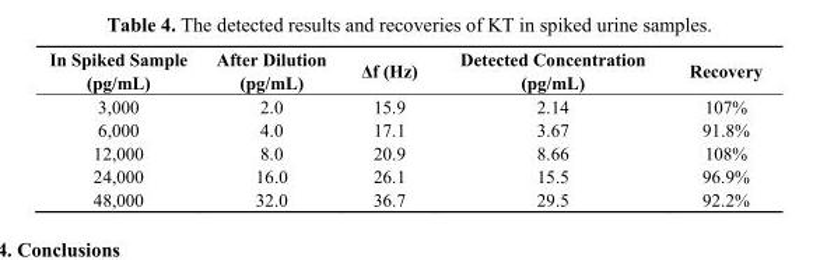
<table><thead><tr><td>In Spiked Sample (pg/mL)</td><td>After Dilution (pg/mL)</td><td>Δf (Hz)</td><td>Detected Concentration (pg/mL)</td><td>Recovery</td></tr></thead><tbody><tr><td>3,000</td><td>2.0</td><td>15.9</td><td>2.14</td><td>107%</td></tr><tr><td>6,000</td><td>4.0</td><td>17.1</td><td>3.67</td><td>91.8%</td></tr><tr><td>12,000</td><td>8.0</td><td>20.9</td><td>8.66</td><td>108%</td></tr><tr><td>24,000</td><td>16.0</td><td>26.1</td><td>15.5</td><td>96.9%</td></tr><tr><td>48,000</td><td>32.0</td><td>36.7</td><td>29.5</td><td>92.2%</td></tr></tbody></table>